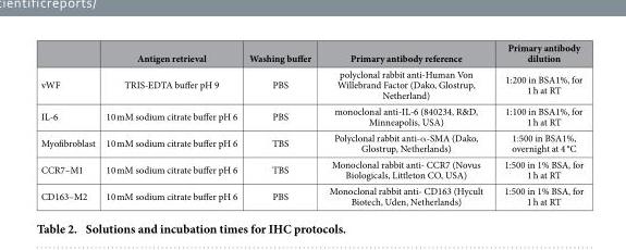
<table><thead><tr><td></td><td>Antigen retrieval</td><td>Washing buffer</td><td>Primary antibody reference</td><td>Primary antibody dilution</td></tr></thead><tbody><tr><td>vWF</td><td>TRIS-EDTA buffer pH 9</td><td>PBS</td><td>polyclonal rabbit anti-Human Von Willebrand Factor (Dako, Glostrup, Netherland)</td><td>1:200 in BSA1%, for 1 h at RT</td></tr><tr><td>IL-6</td><td>10 mM sodium citrate buffer pH 6</td><td>PBS</td><td>monoclonal anti-IL-6 (840234, R&amp;D, Minneapolis, USA)</td><td>1:100 in BSA1%, for 1 h at RT</td></tr><tr><td>Myofibroblast</td><td>10 mM sodium citrate buffer pH 6</td><td>TBS</td><td>Polyclonal rabbit anti-α -SMA (Dako, Glostrup, Netherlands)</td><td>1:500 in BSA1%, overnight at 4 °C</td></tr><tr><td>CCR7–M1</td><td>10 mM sodium citrate buffer pH 6</td><td>TBS</td><td>Monoclonal rabbit anti- CCR7 (Novus Biologicals, Littleton CO, USA)</td><td>1:500 in 1% BSA, for 1 h at RT</td></tr><tr><td>CD163–M2</td><td>10 mM sodium citrate buffer pH 6</td><td>PBS</td><td>Monoclonal rabbit anti- CD163 (Hycult Biotech, Uden, Netherlands)</td><td>1:500 in 1% BSA, for 1 h at RT</td></tr></tbody></table>